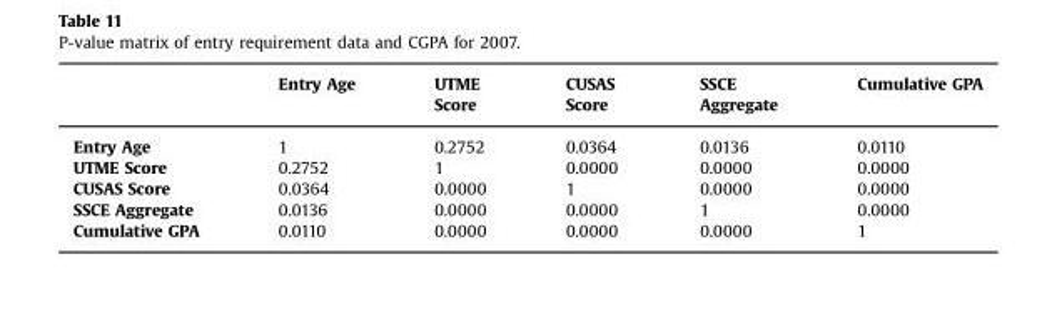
<table><thead><tr><td></td><td>Entry Age</td><td>UTME Score</td><td>CUSAS Score</td><td>SSCE Aggregate</td><td>Cumulative GPA</td></tr></thead><tbody><tr><td>Entry Age</td><td>1</td><td>0.2752</td><td>0.0364</td><td>0.0136</td><td>0.0110</td></tr><tr><td>UTME Score</td><td>0.2752</td><td>1</td><td>0.0000</td><td>0.0000</td><td>0.0000</td></tr><tr><td>CUSAS Score</td><td>0.0364</td><td>0.0000</td><td>1</td><td>0.0000</td><td>0.0000</td></tr><tr><td>SSCE Aggregate</td><td>0.0136</td><td>0.0000</td><td>0.0000</td><td>1</td><td>0.0000</td></tr><tr><td>Cumulative GPA</td><td>0.0110</td><td>0.0000</td><td>0.0000</td><td>0.0000</td><td>1</td></tr></tbody></table>